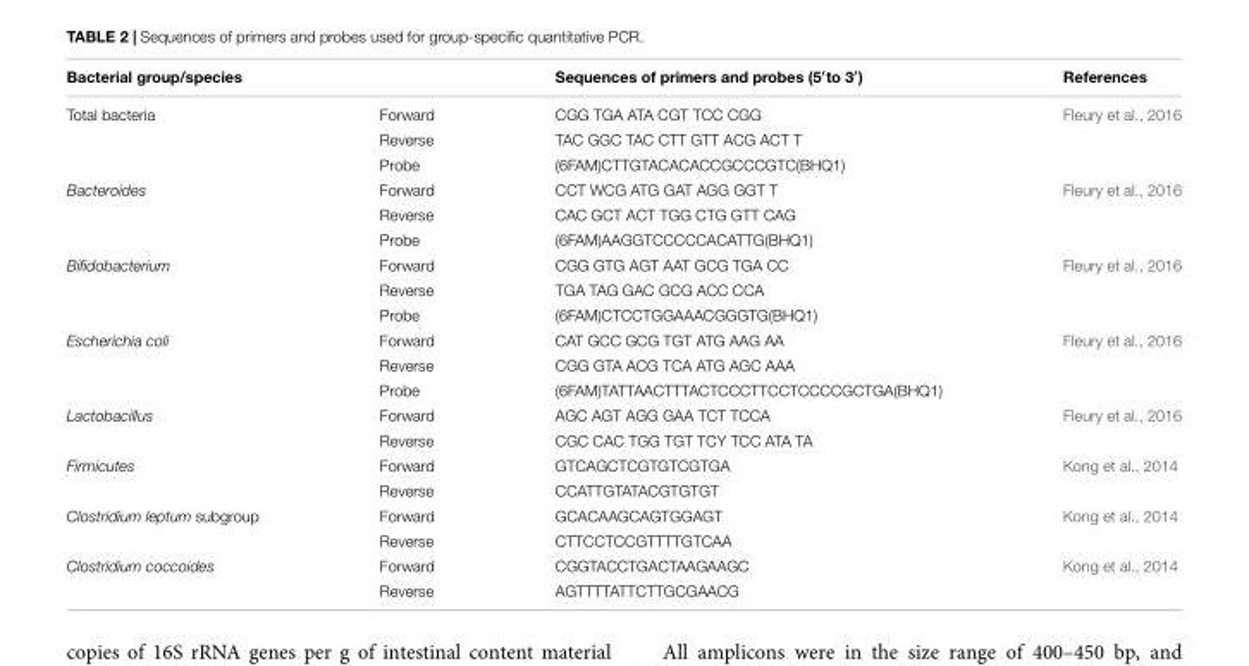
<table><thead><tr><td>Bacterial group/species</td><td></td><td>Sequences of primers and probes (5′to 3′)</td><td>References</td></tr></thead><tbody><tr><td rowspan="3">Total bacteria</td><td>Forward</td><td>CGG TGA ATA CGT TCC CGG</td><td>Fleury et al., 2016</td></tr><tr><td>Reverse</td><td>TAC GGC TAC CTT GTT ACG ACT T</td><td></td></tr><tr><td>Probe</td><td>(6FAM)CTTGTACACACCGCCCGTC(BHQ1)</td><td></td></tr><tr><td rowspan="3">Bacteroides</td><td>Forward</td><td>CCT WCG ATG GAT AGG GGT T</td><td>Fleury et al., 2016</td></tr><tr><td>Reverse</td><td>CAC GCT ACT TGG CTG GTT CAG</td><td></td></tr><tr><td>Probe</td><td>(6FAM)AAGGTCCCCCACATTG(BHQ1)</td><td></td></tr><tr><td rowspan="3">Bifidobacterium</td><td>Forward</td><td>CGG GTG AGT AAT GCG TGA CC</td><td>Fleury et al., 2016</td></tr><tr><td>Reverse</td><td>TGA TAG GAC GCG ACC CCA</td><td></td></tr><tr><td>Probe</td><td>(6FAM)CTCCTGGAAACGGGTG(BHQ1)</td><td></td></tr><tr><td rowspan="3">Escherichia coli</td><td>Forward</td><td>CAT GCC GCG TGT ATG AAG AA</td><td>Fleury et al., 2016</td></tr><tr><td>Reverse</td><td>CGG GTA ACG TCA ATG AGC AAA</td><td></td></tr><tr><td>Probe</td><td>(6FAM)TATTAACTTTACTCCCTTCCTCCCCGCTGA(BHQ1)</td><td></td></tr><tr><td rowspan="2">Lactobacillus</td><td>Forward</td><td>AGC AGT AGG GAA TCT TCCA</td><td>Fleury et al., 2016</td></tr><tr><td>Reverse</td><td>CGC CAC TGG TGT TCY TCC ATA TA</td><td></td></tr><tr><td rowspan="2">Firmicutes</td><td>Forward</td><td>GTCAGCTCGTGTCGTGA</td><td>Kong et al., 2014</td></tr><tr><td>Reverse</td><td>CCATTGTATACGTGTGT</td><td></td></tr><tr><td rowspan="2">Clostridium leptum subgroup</td><td>Forward</td><td>GCACAAGCAGTGGAGT</td><td>Kong et al., 2014</td></tr><tr><td>Reverse</td><td>CTTCCTCCGTTTTGTCAA</td><td></td></tr><tr><td rowspan="2">Clostridium coccoides</td><td>Forward</td><td>CGGTACCTGACTAAGAAGC</td><td>Kong et al., 2014</td></tr><tr><td>Reverse</td><td>AGTTTTATTCTTGCGAACG</td><td></td></tr></tbody></table>